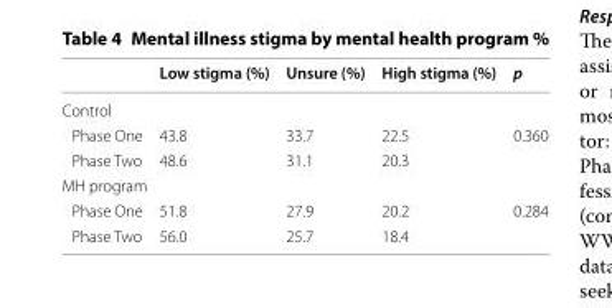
<table><thead><tr><td></td><td>Low stigma (%)</td><td>Unsure (%)</td><td>High stigma (%)</td><td>p</td></tr></thead><tbody><tr><td colspan="5">Control</td></tr><tr><td>Phase One</td><td>43.8</td><td>33.7</td><td>22.5</td><td>0.360</td></tr><tr><td>Phase Two</td><td>48.6</td><td>31.1</td><td>20.3</td><td></td></tr><tr><td colspan="5">MH program</td></tr><tr><td>Phase One</td><td>51.8</td><td>27.9</td><td>20.2</td><td>0.284</td></tr><tr><td>Phase Two</td><td>56.0</td><td>25.7</td><td>18.4</td><td></td></tr></tbody></table>